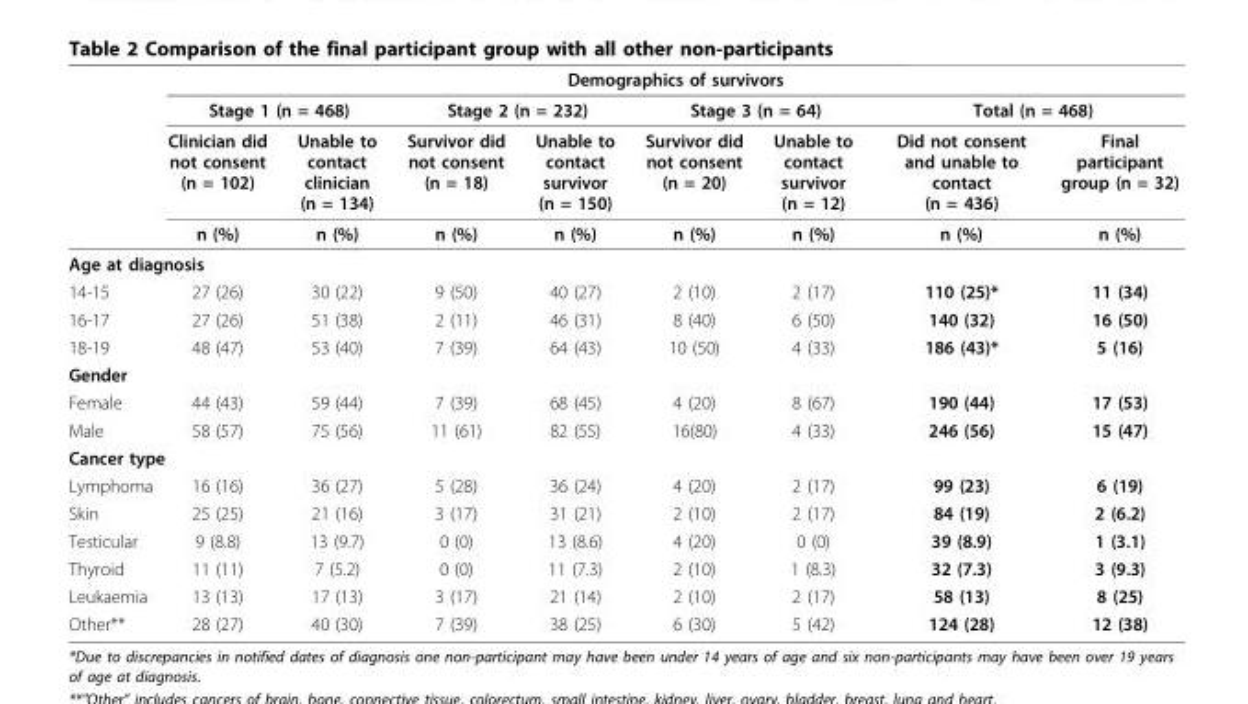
<table><thead><tr><td rowspan="4"></td><td colspan="8">Demographics of survivors</td></tr><tr><td colspan="2">Stage 1 (n = 468)</td><td colspan="2">Stage 2 (n = 232)</td><td colspan="2">Stage 3 (n = 64)</td><td colspan="2">Total (n = 468)</td></tr><tr><td rowspan="2">Clinician did not consent (n = 102) n (%)</td><td rowspan="2">Unable to contact clinician (n = 134) n (%)</td><td rowspan="2">Survivor did not consent (n = 18) n (%)</td><td rowspan="2">Unable to contact survivor (n = 150) n (%)</td><td rowspan="2">Survivor did not consent (n = 20) n (%)</td><td rowspan="2">Unable to contact survivor (n = 12) n (%)</td><td rowspan="2">Did not consent and unable to contact (n = 436) n (%)</td><td rowspan="2">Final participant group (n = 32) n (%)</td></tr><tr></tr></thead><tbody><tr><td colspan="9">Age at diagnosis</td></tr><tr><td>14-15</td><td>27 (26)</td><td>30 (22)</td><td>9 (50)</td><td>40 (27)</td><td>2 (10)</td><td>2 (17)</td><td>110 (25)*</td><td>11 (34)</td></tr><tr><td>16-17</td><td>27 (26)</td><td>51 (38)</td><td>2 (11)</td><td>46 (31)</td><td>8 (40)</td><td>6 (50)</td><td>140 (32)</td><td>16 (50)</td></tr><tr><td>18-19</td><td>48 (47)</td><td>53 (40)</td><td>7 (39)</td><td>64 (43)</td><td>10 (50)</td><td>4 (33)</td><td>186 (43)*</td><td>5 (16)</td></tr><tr><td colspan="9">Gender</td></tr><tr><td>Female</td><td>44 (43)</td><td>59 (44)</td><td>7 (39)</td><td>68 (45)</td><td>4 (20)</td><td>8 (67)</td><td>190 (44)</td><td>17 (53)</td></tr><tr><td>Male</td><td>58 (57)</td><td>75 (56)</td><td>11 (61)</td><td>82 (55)</td><td>16(80)</td><td>4 (33)</td><td>246 (56)</td><td>15 (47)</td></tr><tr><td colspan="9">Cancer type</td></tr><tr><td>Lymphoma</td><td>16 (16)</td><td>36 (27)</td><td>5 (28)</td><td>36 (24)</td><td>4 (20)</td><td>2 (17)</td><td>99 (23)</td><td>6 (19)</td></tr><tr><td>Skin</td><td>25 (25)</td><td>21 (16)</td><td>3 (17)</td><td>31 (21)</td><td>2 (10)</td><td>2 (17)</td><td>84 (19)</td><td>2 (6.2)</td></tr><tr><td>Testicular</td><td>9 (8.8)</td><td>13 (9.7)</td><td>0 (0)</td><td>13 (8.6)</td><td>4 (20)</td><td>0 (0)</td><td>39 (8.9)</td><td>1 (3.1)</td></tr><tr><td>Thyroid</td><td>11 (11)</td><td>7 (5.2)</td><td>0 (0)</td><td>11 (7.3)</td><td>2 (10)</td><td>1 (8.3)</td><td>32 (7.3)</td><td>3 (9.3)</td></tr><tr><td>Leukaemia</td><td>13 (13)</td><td>17 (13)</td><td>3 (17)</td><td>21 (14)</td><td>2 (10)</td><td>2 (17)</td><td>58 (13)</td><td>8 (25)</td></tr><tr><td>Other**</td><td>28 (27)</td><td>40 (30)</td><td>7 (39)</td><td>38 (25)</td><td>6 (30)</td><td>5 (42)</td><td>124 (28)</td><td>12 (38)</td></tr></tbody></table>